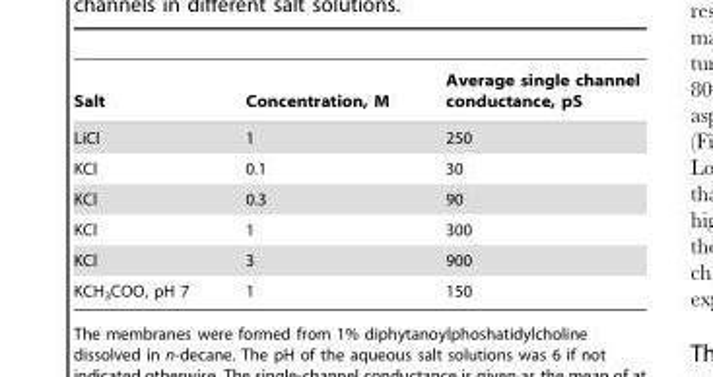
<table><thead><tr><td>Salt</td><td>Concentration, M</td><td>Average single channel conductance, pS</td></tr></thead><tbody><tr><td>LiCl</td><td>1</td><td>250</td></tr><tr><td>KCl</td><td>0.1</td><td>30</td></tr><tr><td>KCl</td><td>0.3</td><td>90</td></tr><tr><td>KCl</td><td>1</td><td>300</td></tr><tr><td>KCl</td><td>3</td><td>900</td></tr><tr><td>KCH<sub>3</sub>COO, pH 7</td><td>1</td><td>150</td></tr></tbody></table>